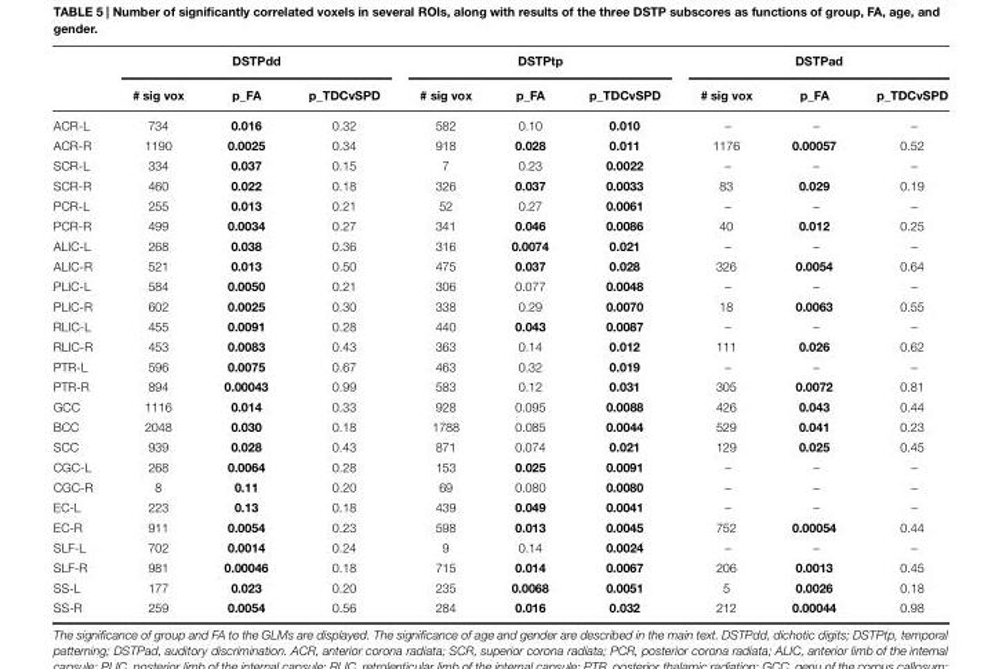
<table><thead><tr><td rowspan="2"></td><td colspan="3">DSTPdd</td><td colspan="3">DSTPtp</td><td colspan="3">DSTPad</td></tr><tr><td># sig vox</td><td>p_FA</td><td>p_TDCvSPD</td><td># sig vox</td><td>p_FA</td><td>p_TDCvSPD</td><td># sig vox</td><td>p_FA</td><td>p_TDCvSPD</td></tr></thead><tbody><tr><td>ACR-L</td><td>734</td><td>0.016</td><td>0.32</td><td>582</td><td>0.10</td><td>0.010</td><td>–</td><td>–</td><td>–</td></tr><tr><td>ACR-R</td><td>1190</td><td>0.0025</td><td>0.34</td><td>918</td><td>0.028</td><td>0.011</td><td>1176</td><td>0.00057</td><td>0.52</td></tr><tr><td>SCR-L</td><td>334</td><td>0.037</td><td>0.15</td><td>7</td><td>0.23</td><td>0.0022</td><td>–</td><td>–</td><td>–</td></tr><tr><td>SCR-R</td><td>460</td><td>0.022</td><td>0.18</td><td>326</td><td>0.037</td><td>0.0033</td><td>83</td><td>0.029</td><td>0.19</td></tr><tr><td>PCR-L</td><td>255</td><td>0.013</td><td>0.21</td><td>52</td><td>0.27</td><td>0.0061</td><td>–</td><td>–</td><td>–</td></tr><tr><td>PCR-R</td><td>499</td><td>0.0034</td><td>0.27</td><td>341</td><td>0.046</td><td>0.0086</td><td>40</td><td>0.012</td><td>0.25</td></tr><tr><td>ALIC-L</td><td>268</td><td>0.038</td><td>0.36</td><td>316</td><td>0.0074</td><td>0.021</td><td>–</td><td>–</td><td>–</td></tr><tr><td>ALIC-R</td><td>521</td><td>0.013</td><td>0.50</td><td>475</td><td>0.037</td><td>0.028</td><td>326</td><td>0.0054</td><td>0.64</td></tr><tr><td>PLIC-L</td><td>584</td><td>0.0050</td><td>0.21</td><td>306</td><td>0.077</td><td>0.0048</td><td>–</td><td>–</td><td>–</td></tr><tr><td>PLIC-R</td><td>602</td><td>0.0025</td><td>0.30</td><td>338</td><td>0.29</td><td>0.0070</td><td>18</td><td>0.0063</td><td>0.55</td></tr><tr><td>RLIC-L</td><td>455</td><td>0.0091</td><td>0.28</td><td>440</td><td>0.043</td><td>0.0087</td><td>–</td><td>–</td><td>–</td></tr><tr><td>RLIC-R</td><td>453</td><td>0.0083</td><td>0.43</td><td>363</td><td>0.14</td><td>0.012</td><td>111</td><td>0.026</td><td>0.62</td></tr><tr><td>PTR-L</td><td>596</td><td>0.0075</td><td>0.67</td><td>463</td><td>0.32</td><td>0.019</td><td>–</td><td>–</td><td>–</td></tr><tr><td>PTR-R</td><td>894</td><td>0.00043</td><td>0.99</td><td>583</td><td>0.12</td><td>0.031</td><td>305</td><td>0.0072</td><td>0.81</td></tr><tr><td>GCC</td><td>1116</td><td>0.014</td><td>0.33</td><td>928</td><td>0.095</td><td>0.0088</td><td>426</td><td>0.043</td><td>0.44</td></tr><tr><td>BCC</td><td>2048</td><td>0.030</td><td>0.18</td><td>1788</td><td>0.085</td><td>0.0044</td><td>529</td><td>0.041</td><td>0.23</td></tr><tr><td>SCC</td><td>939</td><td>0.028</td><td>0.43</td><td>871</td><td>0.074</td><td>0.021</td><td>129</td><td>0.025</td><td>0.45</td></tr><tr><td>CGC-L</td><td>268</td><td>0.0064</td><td>0.28</td><td>153</td><td>0.025</td><td>0.0091</td><td>–</td><td>–</td><td>–</td></tr><tr><td>CGC-R</td><td>8</td><td>0.11</td><td>0.20</td><td>69</td><td>0.080</td><td>0.0080</td><td>–</td><td>–</td><td>–</td></tr><tr><td>EC-L</td><td>223</td><td>0.13</td><td>0.18</td><td>439</td><td>0.049</td><td>0.0041</td><td>–</td><td>–</td><td>–</td></tr><tr><td>EC-R</td><td>911</td><td>0.0054</td><td>0.23</td><td>598</td><td>0.013</td><td>0.0045</td><td>752</td><td>0.00054</td><td>0.44</td></tr><tr><td>SLF-L</td><td>702</td><td>0.0014</td><td>0.24</td><td>9</td><td>0.14</td><td>0.0024</td><td>–</td><td>–</td><td>–</td></tr><tr><td>SLF-R</td><td>981</td><td>0.00046</td><td>0.18</td><td>715</td><td>0.014</td><td>0.0067</td><td>206</td><td>0.0013</td><td>0.45</td></tr><tr><td>SS-L</td><td>177</td><td>0.023</td><td>0.20</td><td>235</td><td>0.0068</td><td>0.0051</td><td>5</td><td>0.0026</td><td>0.18</td></tr><tr><td>SS-R</td><td>259</td><td>0.0054</td><td>0.56</td><td>284</td><td>0.016</td><td>0.032</td><td>212</td><td>0.00044</td><td>0.98</td></tr></tbody></table>